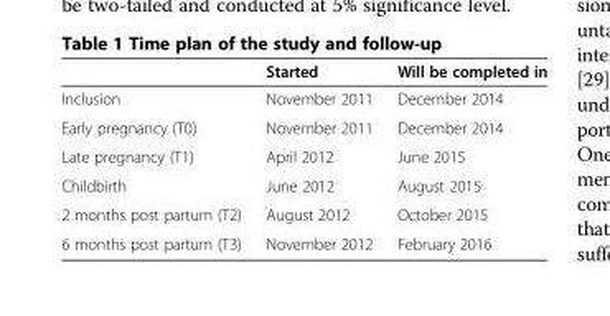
<table><thead><tr><td></td><td>Started</td><td>Will be completed in</td></tr></thead><tbody><tr><td>Inclusion</td><td>November 2011</td><td>December 2014</td></tr><tr><td>Early pregnancy (T0)</td><td>November 2011</td><td>December 2014</td></tr><tr><td>Late pregnancy (T1)</td><td>April 2012</td><td>June 2015</td></tr><tr><td>Childbirth</td><td>June 2012</td><td>August 2015</td></tr><tr><td>2 months post partum (T2)</td><td>August 2012</td><td>October 2015</td></tr><tr><td>6 months post partum (T3)</td><td>November 2012</td><td>February 2016</td></tr></tbody></table>